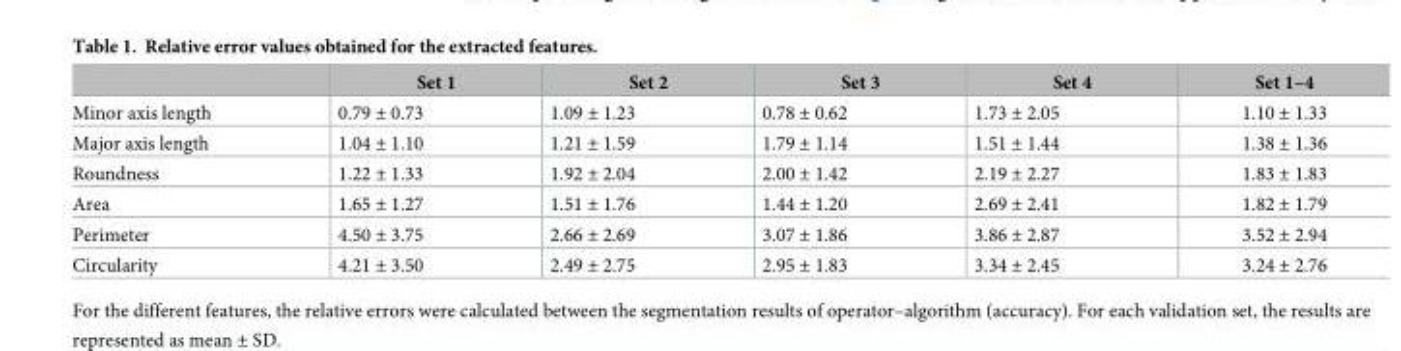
<table><thead><tr><td></td><td>Set 1</td><td>Set 2</td><td>Set 3</td><td>Set 4</td><td>Set 1–4</td></tr></thead><tbody><tr><td>Minor axis length</td><td>0.79 ± 0.73</td><td>1.09 ± 1.23</td><td>0.78 ± 0.62</td><td>1.73 ± 2.05</td><td>1.10 ± 1.33</td></tr><tr><td>Major axis length</td><td>1.04 ± 1.10</td><td>1.21 ± 1.59</td><td>1.79 ± 1.14</td><td>1.51 ± 1.44</td><td>1.38 ± 1.36</td></tr><tr><td>Roundness</td><td>1.22 ± 1.33</td><td>1.92 ± 2.04</td><td>2.00 ± 1.42</td><td>2.19 ± 2.27</td><td>1.83 ± 1.83</td></tr><tr><td>Area</td><td>1.65 ± 1.27</td><td>1.51 ± 1.76</td><td>1.44 ± 1.20</td><td>2.69 ± 2.41</td><td>1.82 ± 1.79</td></tr><tr><td>Perimeter</td><td>4.50 ± 3.75</td><td>2.66 ± 2.69</td><td>3.07 ± 1.86</td><td>3.86 ± 2.87</td><td>3.52 ± 2.94</td></tr><tr><td>Circularity</td><td>4.21 ± 3.50</td><td>2.49 ± 2.75</td><td>2.95 ± 1.83</td><td>3.34 ± 2.45</td><td>3.24 ± 2.76</td></tr></tbody></table>